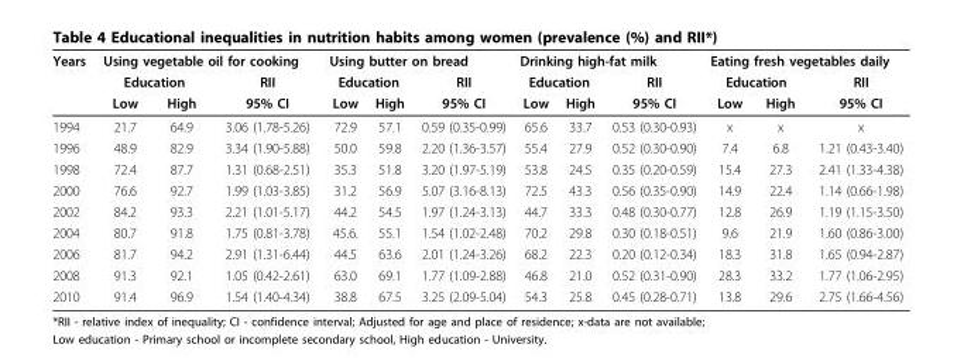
<table><thead><tr><td rowspan="3">Years</td><td colspan="3">Using vegetable oil for cooking</td><td colspan="3">Using butter on bread</td><td colspan="3">Drinking high-fat milk</td><td colspan="3">Eating fresh vegetables daily</td></tr><tr><td colspan="2">Education</td><td rowspan="2">RII 95% CI</td><td colspan="2">Education</td><td rowspan="2">RII 95% CI</td><td colspan="2">Education</td><td rowspan="2">RII 95% CI</td><td colspan="2">Education</td><td rowspan="2">RII 95% CI</td></tr><tr><td>Low</td><td>High</td><td>Low</td><td>High</td><td>Low</td><td>High</td><td>Low</td><td>High</td></tr></thead><tbody><tr><td>1994</td><td>21.7</td><td>64.9</td><td>3.06 (1.78-5.26)</td><td>72.9</td><td>57.1</td><td>0.59 (0.35-0.99)</td><td>65.6</td><td>33.7</td><td>0.53 (0.30-0.93)</td><td>x</td><td>x</td><td>x</td></tr><tr><td>1996</td><td>48.9</td><td>82.9</td><td>3.34 (1.90-5.88)</td><td>50.0</td><td>59.8</td><td>2.20 (1.36-3.57)</td><td>55.4</td><td>27.9</td><td>0.52 (0.30-0.90)</td><td>7.4</td><td>6.8</td><td>1.21 (0.43-3.40)</td></tr><tr><td>1998</td><td>72.4</td><td>87.7</td><td>1.31 (0.68-2.51)</td><td>35.3</td><td>51.8</td><td>3.20 (1.97-5.19)</td><td>53.8</td><td>24.5</td><td>0.35 (0.20-0.59)</td><td>15.4</td><td>27.3</td><td>2.41 (1.33-4.38)</td></tr><tr><td>2000</td><td>76.6</td><td>92.7</td><td>1.99 (1.03-3.85)</td><td>31.2</td><td>56.9</td><td>5.07 (3.16-8.13)</td><td>72.5</td><td>43.3</td><td>0.56 (0.35-0.90)</td><td>14.9</td><td>22.4</td><td>1.14 (0.66-1.98)</td></tr><tr><td>2002</td><td>84.2</td><td>93.3</td><td>2.21 (1.01-5.17)</td><td>44.2</td><td>54.5</td><td>1.97 (1.24-3.13)</td><td>44.7</td><td>33.3</td><td>0.48 (0.30-0.77)</td><td>12.8</td><td>26.9</td><td>1.19 (1.15-3.50)</td></tr><tr><td>2004</td><td>80.7</td><td>91.8</td><td>1.75 (0.81-3.78)</td><td>45.6.</td><td>55.1</td><td>1.54 (1.02-2.48)</td><td>70.2</td><td>29.8</td><td>0.30 (0.18-0.51)</td><td>9.6</td><td>21.9</td><td>1.60 (0.86-3.00)</td></tr><tr><td>2006</td><td>81.7</td><td>94.2</td><td>2.91 (1.31-6.44)</td><td>44.5</td><td>63.6</td><td>2.01 (1.24-3.26)</td><td>68.2</td><td>22.3</td><td>0.20 (0.12-0.34)</td><td>18.3</td><td>31.8</td><td>1.65 (0.94-2.87)</td></tr><tr><td>2008</td><td>91.3</td><td>92.1</td><td>1.05 (0.42-2.61)</td><td>63.0</td><td>69.1</td><td>1.77 (1.09-2.88)</td><td>46.8</td><td>21.0</td><td>0.52 (0.31-0.90)</td><td>28.3</td><td>33.2</td><td>1.77 (1.06-2.95)</td></tr><tr><td>2010</td><td>91.4</td><td>96.9</td><td>1.54 (1.40-4.34)</td><td>38.8</td><td>67.5</td><td>3.25 (2.09-5.04)</td><td>54.3</td><td>25.8</td><td>0.45 (0.28-0.71)</td><td>13.8</td><td>29.6</td><td>2.75 (1.66-4.56)</td></tr></tbody></table>